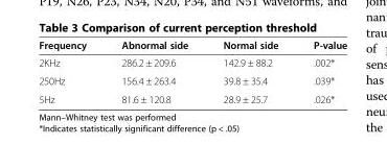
<table><thead><tr><td>Frequency</td><td>Abnormal side</td><td>Normal side</td><td>P-value</td></tr></thead><tbody><tr><td>2KHz</td><td>286.2 ± 209.6</td><td>142.9 ± 88.2</td><td>.002*</td></tr><tr><td>250Hz</td><td>156.4 ± 263.4</td><td>39.8 ± 35.4</td><td>.039*</td></tr><tr><td>5Hz</td><td>81.6 ± 120.8</td><td>28.9 ± 25.7</td><td>.026*</td></tr></tbody></table>